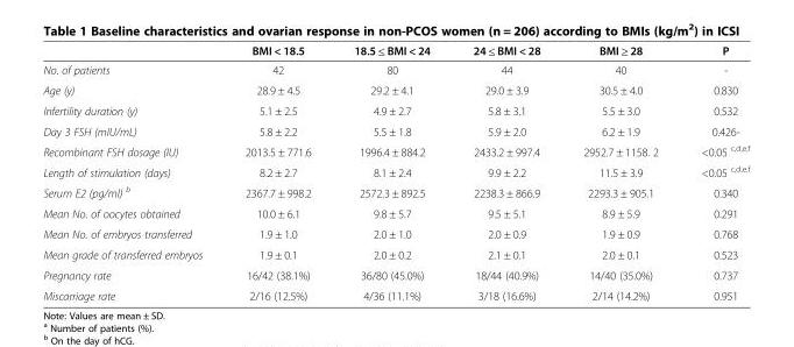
<table><thead><tr><td></td><td>BMI &lt; 18.5</td><td>18.5 ≤ BMI &lt; 24</td><td>24 ≤ BMI &lt; 28</td><td>BMI ≥ 28</td><td>P</td></tr></thead><tbody><tr><td>No. of patients</td><td>42</td><td>80</td><td>44</td><td>40</td><td>-</td></tr><tr><td>Age (y)</td><td>28.9 ± 4.5</td><td>29.2 ± 4.1</td><td>29.0 ± 3.9</td><td>30.5 ± 4.0</td><td>0.830</td></tr><tr><td>Infertility duration (y)</td><td>5.1 ± 2.5</td><td>4.9 ± 2.7</td><td>5.8 ± 3.1</td><td>5.5 ± 3.0</td><td>0.532</td></tr><tr><td>Day 3 FSH (mIU/mL)</td><td>5.8 ± 2.2</td><td>5.5 ± 1.8</td><td>5.9 ± 2.0</td><td>6.2 ± 1.9</td><td>0.426-</td></tr><tr><td>Recombinant FSH dosage (IU)</td><td>2013.5 ± 771.6</td><td>1996.4 ± 884.2</td><td>2433.2 ± 997.4</td><td>2952.7 ± 1158. 2</td><td>&lt;0.05 <sup>c,d,e,f</sup></td></tr><tr><td>Length of stimulation (days)</td><td>8.2 ± 2.7</td><td>8.1 ± 2.4</td><td>9.9 ± 2.2</td><td>11.5 ± 3.9</td><td>&lt;0.05 <sup>c,d,e,f</sup></td></tr><tr><td>Serum E2 (pg/ml) <sup>b</sup></td><td>2367.7 ± 998.2</td><td>2572.3 ± 892.5</td><td>2238.3 ± 866.9</td><td>2293.3 ± 905.1</td><td>0.340</td></tr><tr><td>Mean No. of oocytes obtained</td><td>10.0 ± 6.1</td><td>9.8 ± 5.7</td><td>9.5 ± 5.1</td><td>8.9 ± 5.9</td><td>0.291</td></tr><tr><td>Mean No. of embryos transferred</td><td>1.9 ± 1.0</td><td>2.0 ± 1.0</td><td>2.0 ± 0.9</td><td>1.9 ± 0.9</td><td>0.768</td></tr><tr><td>Mean grade of transferred embryos</td><td>1.9 ± 0.1</td><td>2.0 ± 0.2</td><td>2.1 ± 0.1</td><td>2.0 ± 0.1</td><td>0.523</td></tr><tr><td>Pregnancy rate</td><td>16/42 (38.1%)</td><td>36/80 (45.0%)</td><td>18/44 (40.9%)</td><td>14/40 (35.0%)</td><td>0.737</td></tr><tr><td>Miscarriage rate</td><td>2/16 (12.5%)</td><td>4/36 (11.1%)</td><td>3/18 (16.6%)</td><td>2/14 (14.2%)</td><td>0.951</td></tr></tbody></table>